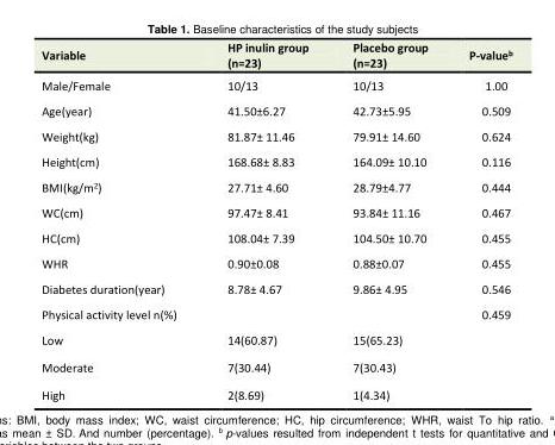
<table><tbody><tr><td>Variable</td><td>HP inulin group (n=23)</td><td>Placebo group (n=23)</td><td>P-value<sup>b</sup></td></tr><tr><td>Male/Female</td><td>10/13</td><td>10/13</td><td>1.00</td></tr><tr><td>Age(year)</td><td>41.50±6.27</td><td>42.73±5.95</td><td>0.509</td></tr><tr><td>Weight(kg)</td><td>81.87± 11.46</td><td>79.91± 14.60</td><td>0.624</td></tr><tr><td>Height(cm)</td><td>168.68± 8.83</td><td>164.09± 10.10</td><td>0.116</td></tr><tr><td>BMI(kg/m<sup>2</sup>)</td><td>27.71± 4.60</td><td>28.79±4.77</td><td>0.444</td></tr><tr><td>WC(cm)</td><td>97.47± 8.41</td><td>93.84± 11.16</td><td>0.467</td></tr><tr><td>HC(cm)</td><td>108.04± 7.39</td><td>104.50± 10.70</td><td>0.455</td></tr><tr><td>WHR</td><td>0.90±0.08</td><td>0.88±0.07</td><td>0.455</td></tr><tr><td>Diabetes duration(year)</td><td>8.78± 4.67</td><td>9.86± 4.95</td><td>0.546</td></tr><tr><td>Physical activity level n(%)</td><td></td><td></td><td>0.459</td></tr><tr><td>Low</td><td>14(60.87)</td><td>15(65.23)</td><td></td></tr><tr><td>Moderate</td><td>7(30.44)</td><td>7(30.43)</td><td></td></tr><tr><td>High</td><td>2(8.69)</td><td>1(4.34)</td><td></td></tr></tbody></table>